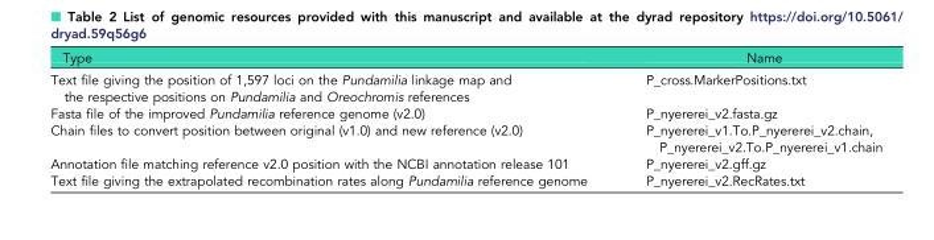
<table><thead><tr><td>Type</td><td>Name</td></tr></thead><tbody><tr><td>Text file giving the position of 1,597 loci on the Pundamilia linkage map and the respective positions on Pundamilia and Oreochromis references</td><td>P_cross.MarkerPositions.txt</td></tr><tr><td>Fasta file of the improved Pundamilia reference genome (v2.0)</td><td>P_nyererei_v2.fasta.gz</td></tr><tr><td>Chain files to convert position between original (v1.0) and new reference (v2.0)</td><td>P_nyererei_v1.To.P_nyererei_v2.chain, P_nyererei_v2.To.P_nyererei_v1.chain</td></tr><tr><td>Annotation file matching reference v2.0 position with the NCBI annotation release 101</td><td>P_nyererei_v2.gff.gz</td></tr><tr><td>Text file giving the extrapolated recombination rates along Pundamilia reference genome</td><td>P_nyererei_v2.RecRates.txt</td></tr></tbody></table>